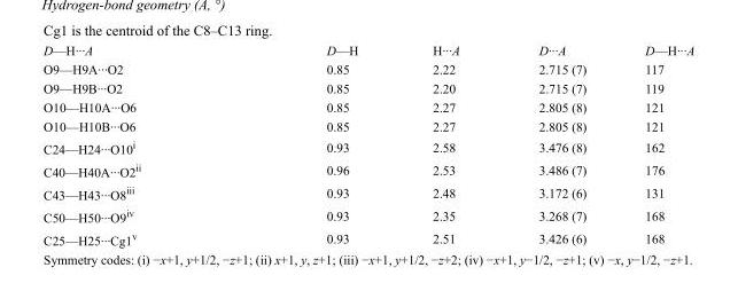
<table><tbody><tr><td>D—H···A</td><td>D—H</td><td>H···A</td><td>D···A</td><td>D—H···A</td></tr><tr><td>O9—H9A···O2</td><td>0.85</td><td>2.22</td><td>2.715 (7)</td><td>117</td></tr><tr><td>O9—H9B···O2</td><td>0.85</td><td>2.20</td><td>2.715 (7)</td><td>119</td></tr><tr><td>O10—H10A···O6</td><td>0.85</td><td>2.27</td><td>2.805 (8)</td><td>121</td></tr><tr><td>O10—H10B···O6</td><td>0.85</td><td>2.27</td><td>2.805 (8)</td><td>121</td></tr><tr><td>C24—H24···O10<sup>i</sup></td><td>0.93</td><td>2.58</td><td>3.476 (8)</td><td>162</td></tr><tr><td>C40—H40A···O2<sup>ii</sup></td><td>0.96</td><td>2.53</td><td>3.486 (7)</td><td>176</td></tr><tr><td>C43—H43···O8<sup>iii</sup></td><td>0.93</td><td>2.48</td><td>3.172 (6)</td><td>131</td></tr><tr><td>C50—H50···O9<sup>iv</sup></td><td>0.93</td><td>2.35</td><td>3.268 (7)</td><td>168</td></tr><tr><td>C25—H25···Cg1<sup>v</sup></td><td>0.93</td><td>2.51</td><td>3.426 (6)</td><td>168</td></tr></tbody></table>